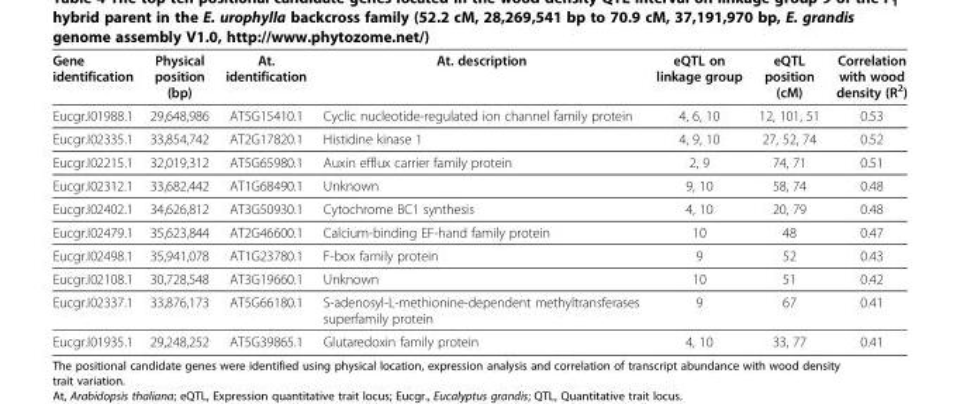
<table><thead><tr><td>Gene identification</td><td>Physical position (bp)</td><td>At. identification</td><td>At. description</td><td>eQTL on linkage group</td><td>eQTL position (cM)</td><td>Correlation with wood density (R<sup>2</sup>)</td></tr></thead><tbody><tr><td>Eucgr.I01988.1</td><td>29,648,986</td><td>AT5G15410.1</td><td>Cyclic nucleotide-regulated ion channel family protein</td><td>4, 6, 10</td><td>12, 101, 51</td><td>0.53</td></tr><tr><td>Eucgr.I02335.1</td><td>33,854,742</td><td>AT2G17820.1</td><td>Histidine kinase 1</td><td>4, 9, 10</td><td>27, 52, 74</td><td>0.52</td></tr><tr><td>Eucgr.I02215.1</td><td>32,019,312</td><td>AT5G65980.1</td><td>Auxin efflux carrier family protein</td><td>2, 9</td><td>74, 71</td><td>0.51</td></tr><tr><td>Eucgr.I02312.1</td><td>33,682,442</td><td>AT1G68490.1</td><td>Unknown</td><td>9, 10</td><td>58, 74</td><td>0.48</td></tr><tr><td>Eucgr.I02402.1</td><td>34,626,812</td><td>AT3G50930.1</td><td>Cytochrome BC1 synthesis</td><td>4, 10</td><td>20, 79</td><td>0.48</td></tr><tr><td>Eucgr.I02479.1</td><td>35,623,844</td><td>AT2G46600.1</td><td>Calcium-binding EF-hand family protein</td><td>10</td><td>48</td><td>0.47</td></tr><tr><td>Eucgr.I02498.1</td><td>35,941,078</td><td>AT1G23780.1</td><td>F-box family protein</td><td>9</td><td>52</td><td>0.43</td></tr><tr><td>Eucgr.I02108.1</td><td>30,728,548</td><td>AT3G19660.1</td><td>Unknown</td><td>10</td><td>51</td><td>0.42</td></tr><tr><td>Eucgr.I02337.1</td><td>33,876,173</td><td>AT5G66180.1</td><td>S-adenosyl-L-methionine-dependent methyltransferases superfamily protein</td><td>9</td><td>67</td><td>0.41</td></tr><tr><td>Eucgr.I01935.1</td><td>29,248,252</td><td>AT5G39865.1</td><td>Glutaredoxin family protein</td><td>4, 10</td><td>33, 77</td><td>0.41</td></tr></tbody></table>